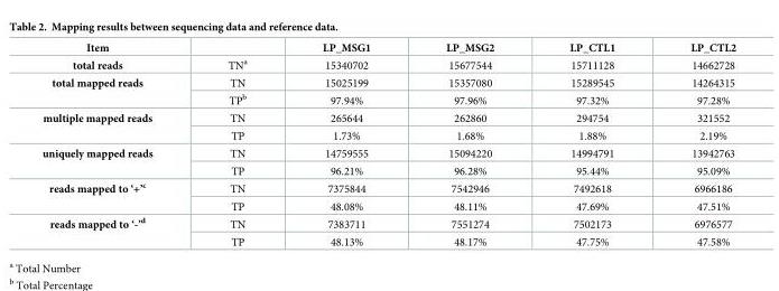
<table><thead><tr><td>Item</td><td></td><td>LP_MSG1</td><td>LP_MSG2</td><td>LP_CTL1</td><td>LP_CTL2</td></tr></thead><tbody><tr><td>total reads</td><td>TN<sup>a</sup></td><td>15340702</td><td>15677544</td><td>15711128</td><td>14662728</td></tr><tr><td rowspan="2">total mapped reads</td><td>TN</td><td>15025199</td><td>15357080</td><td>15289545</td><td>14264315</td></tr><tr><td>TP<sup>b</sup></td><td>97.94%</td><td>97.96%</td><td>97.32%</td><td>97.28%</td></tr><tr><td rowspan="2">multiple mapped reads</td><td>TN</td><td>265644</td><td>262860</td><td>294754</td><td>321552</td></tr><tr><td>TP</td><td>1.73%</td><td>1.68%</td><td>1.88%</td><td>2.19%</td></tr><tr><td rowspan="2">uniquely mapped reads</td><td>TN</td><td>14759555</td><td>15094220</td><td>14994791</td><td>13942763</td></tr><tr><td>TP</td><td>96.21%</td><td>96.28%</td><td>95.44%</td><td>95.09%</td></tr><tr><td rowspan="2">reads mapped to ‘+’<sup>c</sup></td><td>TN</td><td>7375844</td><td>7542946</td><td>7492618</td><td>6966186</td></tr><tr><td>TP</td><td>48.08%</td><td>48.11%</td><td>47.69%</td><td>47.51%</td></tr><tr><td rowspan="2">reads mapped to ‘-’<sup>d</sup></td><td>TN</td><td>7383711</td><td>7551274</td><td>7502173</td><td>6976577</td></tr><tr><td>TP</td><td>48.13%</td><td>48.17%</td><td>47.75%</td><td>47.58%</td></tr></tbody></table>